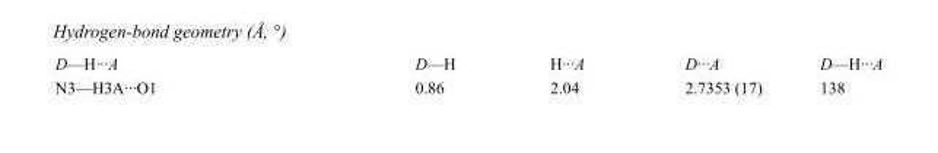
<table><tbody><tr><td>D—H···A</td><td>D—H</td><td>H···A</td><td>D···A</td><td>D—H···A</td></tr><tr><td>N3—H3A···O1</td><td>0.86</td><td>2.04</td><td>2.7353 (17)</td><td>138</td></tr></tbody></table>